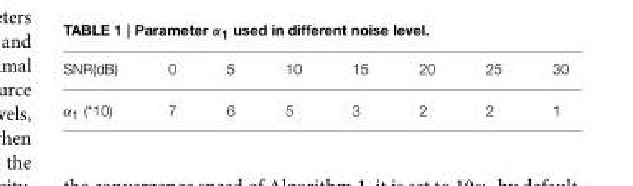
<table><tbody><tr><td>SNR(dB)</td><td>0</td><td>5</td><td>10</td><td>15</td><td>20</td><td>25</td><td>30</td></tr><tr><td>α<sub>1</sub> (*10)</td><td>7</td><td>6</td><td>5</td><td>3</td><td>2</td><td>2</td><td>1</td></tr></tbody></table>